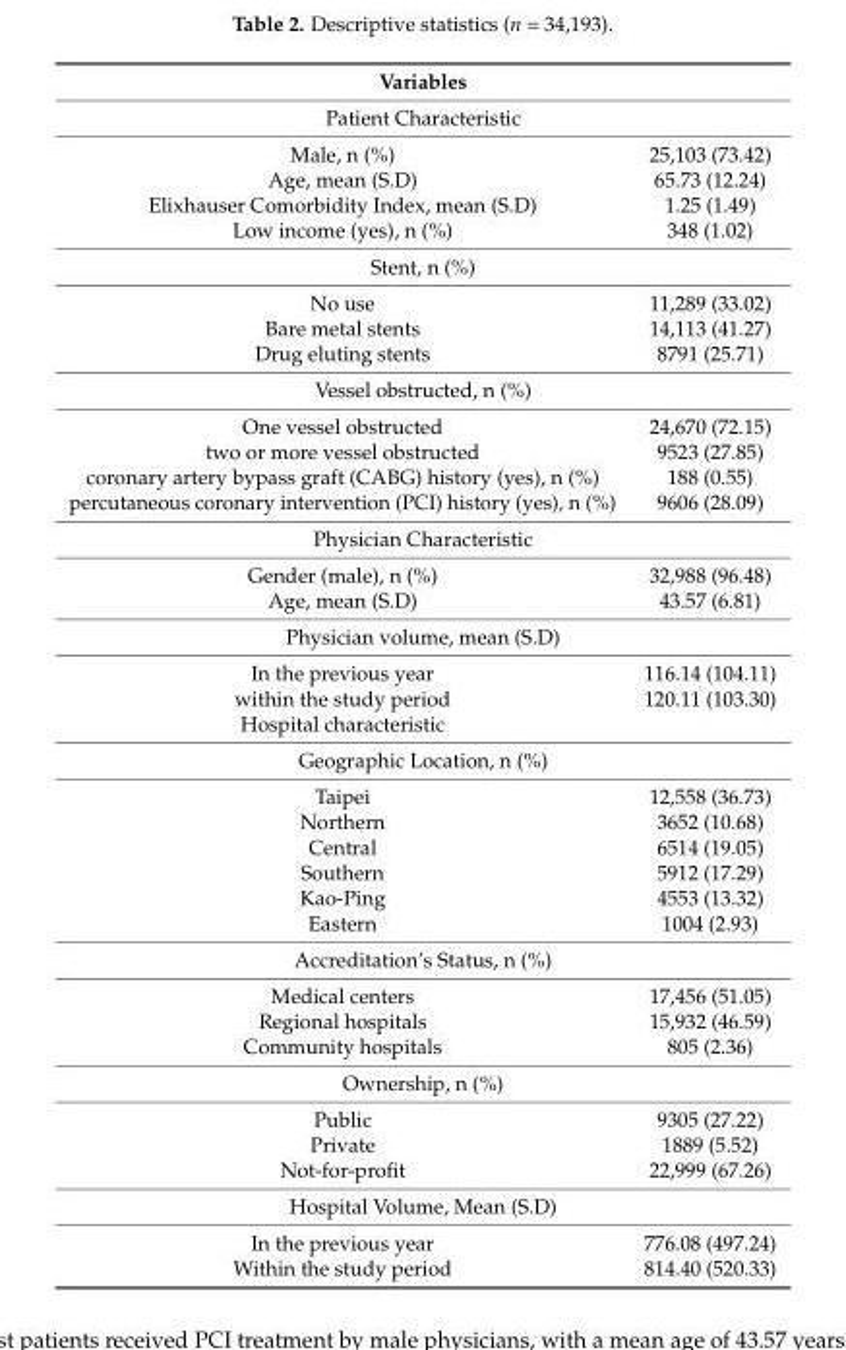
<table><thead><tr><td rowspan="2" colspan="2">Variables Patient Characteristic</td></tr><tr></tr><tr><td>Male, n (%)</td><td>25,103 (73.42)</td></tr></thead><tbody><tr><td>Age, mean (S.D)</td><td>65.73 (12.24)</td></tr><tr><td>Elixhauser Comorbidity Index, mean (S.D)</td><td>1.25 (1.49)</td></tr><tr><td>Low income (yes), n (%)</td><td>348 (1.02)</td></tr><tr><td colspan="2">Stent, n (%)</td></tr><tr><td>No use</td><td>11,289 (33.02)</td></tr><tr><td>Bare metal stents</td><td>14,113 (41.27)</td></tr><tr><td>Drug eluting stents</td><td>8791 (25.71)</td></tr><tr><td colspan="2">Vessel obstructed, n (%)</td></tr><tr><td>One vessel obstructed</td><td>24,670 (72.15)</td></tr><tr><td>two or more vessel obstructed</td><td>9523 (27.85)</td></tr><tr><td>coronary artery bypass graft (CABG) history (yes), n (%)</td><td>188 (0.55)</td></tr><tr><td>percutaneous coronary intervention (PCI) history (yes), n (%)</td><td>9606 (28.09)</td></tr><tr><td colspan="2">Physician Characteristic</td></tr><tr><td>Gender (male), n (%)</td><td>32,988 (96.48)</td></tr><tr><td>Age, mean (S.D)</td><td>43.57 (6.81)</td></tr><tr><td colspan="2">Physician volume, mean (S.D)</td></tr><tr><td>In the previous year</td><td>116.14 (104.11)</td></tr><tr><td>within the study period</td><td>120.11 (103.30)</td></tr><tr><td colspan="2">Hospital characteristic</td></tr><tr><td colspan="2">Geographic Location, n (%)</td></tr><tr><td>Taipei</td><td>12,558 (36.73)</td></tr><tr><td>Northern</td><td>3652 (10.68)</td></tr><tr><td>Central</td><td>6514 (19.05)</td></tr><tr><td>Southern</td><td>5912 (17.29)</td></tr><tr><td>Kao-Ping</td><td>4553 (13.32)</td></tr><tr><td>Eastern</td><td>1004 (2.93)</td></tr><tr><td colspan="2">Accreditation’s Status, n (%)</td></tr><tr><td>Medical centers</td><td>17,456 (51.05)</td></tr><tr><td>Regional hospitals</td><td>15,932 (46.59)</td></tr><tr><td>Community hospitals</td><td>805 (2.36)</td></tr><tr><td colspan="2">Ownership, n (%)</td></tr><tr><td>Public</td><td>9305 (27.22)</td></tr><tr><td>Private</td><td>1889 (5.52)</td></tr><tr><td>Not-for-profit</td><td>22,999 (67.26)</td></tr><tr><td colspan="2">Hospital Volume, Mean (S.D)</td></tr><tr><td>In the previous year</td><td>776.08 (497.24)</td></tr><tr><td>Within the study period</td><td>814.40 (520.33)</td></tr></tbody></table>